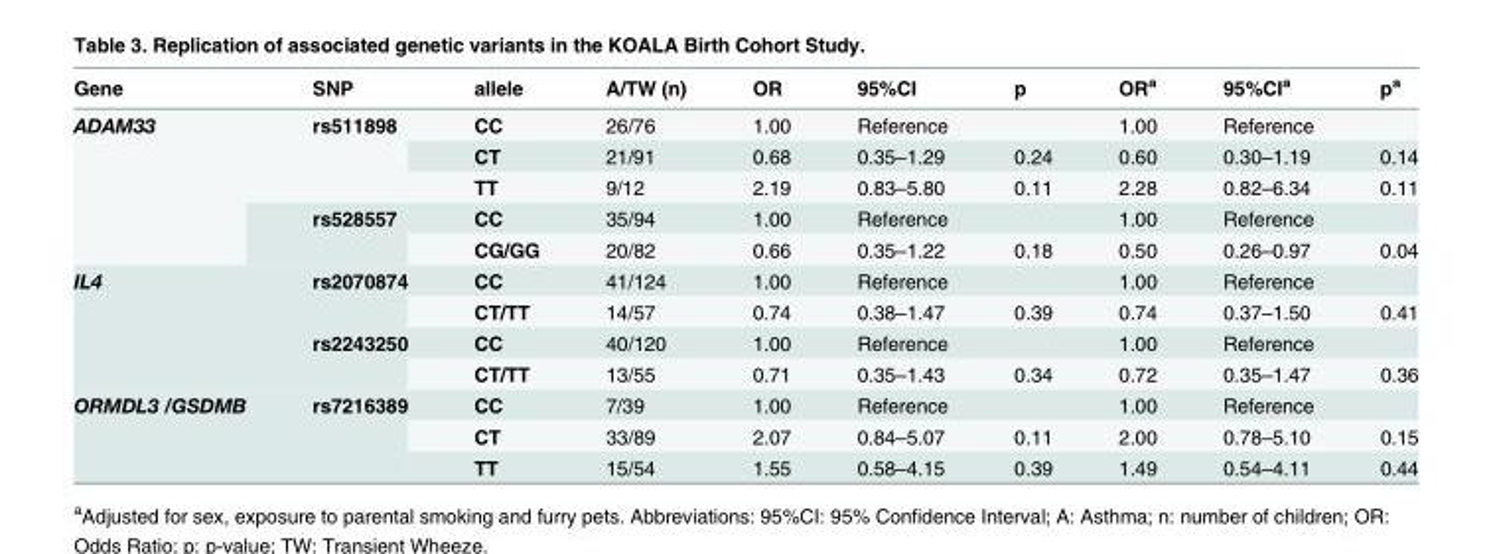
<table><thead><tr><td>Gene</td><td>SNP</td><td>allele</td><td>A/TW (n)</td><td>OR</td><td>95%CI</td><td>p</td><td>OR<sup>a</sup></td><td>95%CI<sup>a</sup></td><td>p<sup>a</sup></td></tr></thead><tbody><tr><td rowspan="5">ADAM33</td><td rowspan="3">rs511898</td><td>CC</td><td>26/76</td><td>1.00</td><td>Reference</td><td></td><td>1.00</td><td>Reference</td><td></td></tr><tr><td>CT</td><td>21/91</td><td>0.68</td><td>0.35–1.29</td><td>0.24</td><td>0.60</td><td>0.30–1.19</td><td>0.14</td></tr><tr><td>TT</td><td>9/12</td><td>2.19</td><td>0.83–5.80</td><td>0.11</td><td>2.28</td><td>0.82–6.34</td><td>0.11</td></tr><tr><td rowspan="2">rs528557</td><td>CC</td><td>35/94</td><td>1.00</td><td>Reference</td><td></td><td>1.00</td><td>Reference</td><td></td></tr><tr><td>CG/GG</td><td>20/82</td><td>0.66</td><td>0.35–1.22</td><td>0.18</td><td>0.50</td><td>0.26–0.97</td><td>0.04</td></tr><tr><td rowspan="4">IL4</td><td rowspan="2">rs2070874</td><td>CC</td><td>41/124</td><td>1.00</td><td>Reference</td><td></td><td>1.00</td><td>Reference</td><td></td></tr><tr><td>CT/TT</td><td>14/57</td><td>0.74</td><td>0.38–1.47</td><td>0.39</td><td>0.74</td><td>0.37–1.50</td><td>0.41</td></tr><tr><td rowspan="2">rs2243250</td><td>CC</td><td>40/120</td><td>1.00</td><td>Reference</td><td></td><td>1.00</td><td>Reference</td><td></td></tr><tr><td>CT/TT</td><td>13/55</td><td>0.71</td><td>0.35–1.43</td><td>0.34</td><td>0.72</td><td>0.35–1.47</td><td>0.36</td></tr><tr><td rowspan="3">ORMDL3 /GSDMB</td><td rowspan="3">rs7216389</td><td>CC</td><td>7/39</td><td>1.00</td><td>Reference</td><td></td><td>1.00</td><td>Reference</td><td></td></tr><tr><td>CT</td><td>33/89</td><td>2.07</td><td>0.84–5.07</td><td>0.11</td><td>2.00</td><td>0.78–5.10</td><td>0.15</td></tr><tr><td>TT</td><td>15/54</td><td>1.55</td><td>0.58–4.15</td><td>0.39</td><td>1.49</td><td>0.54–4.11</td><td>0.44</td></tr></tbody></table>